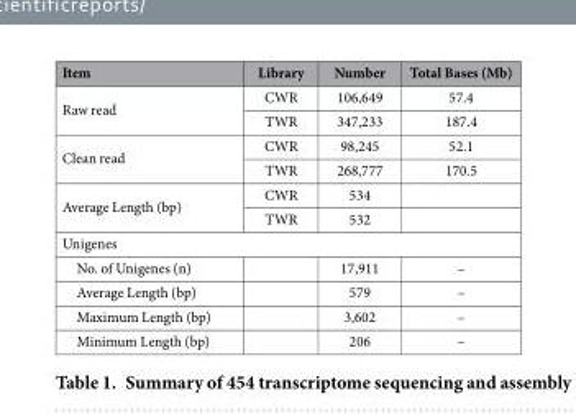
<table><thead><tr><td>Item</td><td>Library</td><td>Number</td><td>Total Bases (Mb)</td></tr></thead><tbody><tr><td rowspan="2">Raw read</td><td>CWR</td><td>106,649</td><td>57.4</td></tr><tr><td>TWR</td><td>347,233</td><td>187.4</td></tr><tr><td rowspan="2">Clean read</td><td>CWR</td><td>98,245</td><td>52.1</td></tr><tr><td>TWR</td><td>268,777</td><td>170.5</td></tr><tr><td rowspan="2">Average Length (bp)</td><td>CWR</td><td>534</td><td></td></tr><tr><td>TWR</td><td>532</td><td></td></tr><tr><td colspan="4">Unigenes</td></tr><tr><td>No. of Unigenes (n)</td><td></td><td>17,911</td><td>–</td></tr><tr><td>Average Length (bp)</td><td></td><td>579</td><td>–</td></tr><tr><td>Maximum Length (bp)</td><td></td><td>3,602</td><td>–</td></tr><tr><td>Minimum Length (bp)</td><td></td><td>206</td><td>–</td></tr></tbody></table>